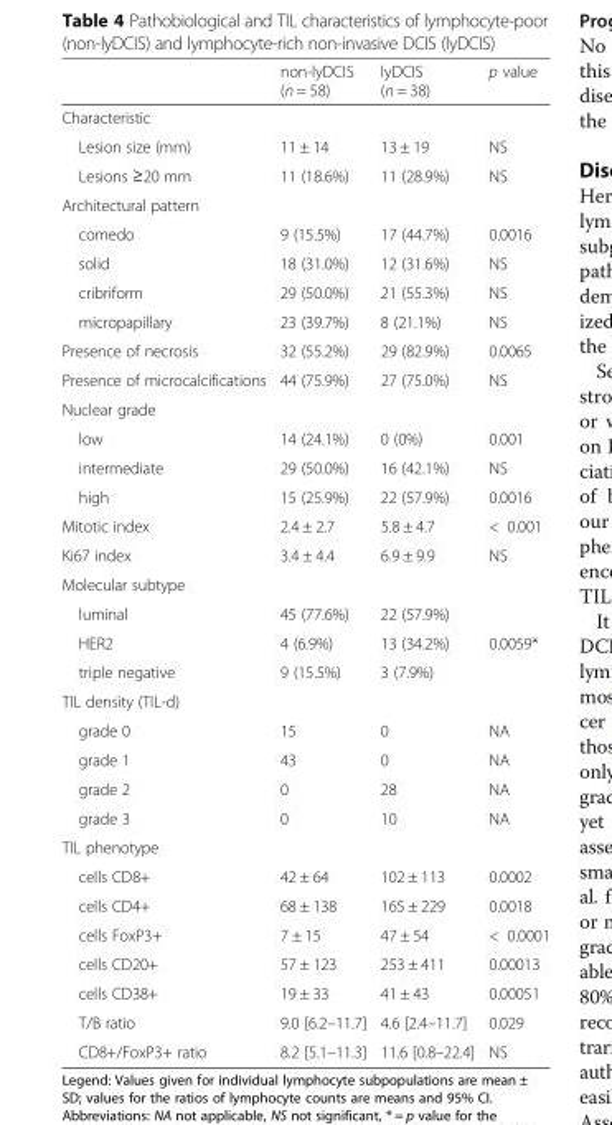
<table><thead><tr><td></td><td>non-lyDCIS (n = 58)</td><td>lyDCIS (n = 38)</td><td>p value</td></tr></thead><tbody><tr><td colspan="4">Characteristic</td></tr><tr><td>Lesion size (mm)</td><td>11 ± 14</td><td>13 ± 19</td><td>NS</td></tr><tr><td>Lesions ≥20 mm</td><td>11 (18.6%)</td><td>11 (28.9%)</td><td>NS</td></tr><tr><td colspan="4">Architectural pattern</td></tr><tr><td>comedo</td><td>9 (15.5%)</td><td>17 (44.7%)</td><td>0.0016</td></tr><tr><td>solid</td><td>18 (31.0%)</td><td>12 (31.6%)</td><td>NS</td></tr><tr><td>cribriform</td><td>29 (50.0%)</td><td>21 (55.3%)</td><td>NS</td></tr><tr><td>micropapillary</td><td>23 (39.7%)</td><td>8 (21.1%)</td><td>NS</td></tr><tr><td>Presence of necrosis</td><td>32 (55.2%)</td><td>29 (82.9%)</td><td>0.0065</td></tr><tr><td>Presence of microcalcifications</td><td>44 (75.9%)</td><td>27 (75.0%)</td><td>NS</td></tr><tr><td colspan="4">Nuclear grade</td></tr><tr><td>low</td><td>14 (24.1%)</td><td>0 (0%)</td><td>0.001</td></tr><tr><td>intermediate</td><td>29 (50.0%)</td><td>16 (42.1%)</td><td>NS</td></tr><tr><td>high</td><td>15 (25.9%)</td><td>22 (57.9%)</td><td>0.0016</td></tr><tr><td>Mitotic index</td><td>2.4 ± 2.7</td><td>5.8 ± 4.7</td><td>&lt; 0.001</td></tr><tr><td>Ki67 index</td><td>3.4 ± 4.4</td><td>6.9 ± 9.9</td><td>NS</td></tr><tr><td colspan="4">Molecular subtype</td></tr><tr><td>luminal</td><td>45 (77.6%)</td><td>22 (57.9%)</td><td></td></tr><tr><td>HER2</td><td>4 (6.9%)</td><td>13 (34.2%)</td><td>0.0059*</td></tr><tr><td>triple negative</td><td>9 (15.5%)</td><td>3 (7.9%)</td><td></td></tr><tr><td colspan="4">TIL density (TIL-d)</td></tr><tr><td>grade 0</td><td>15</td><td>0</td><td>NA</td></tr><tr><td>grade 1</td><td>43</td><td>0</td><td>NA</td></tr><tr><td>grade 2</td><td>0</td><td>28</td><td>NA</td></tr><tr><td>grade 3</td><td>0</td><td>10</td><td>NA</td></tr><tr><td colspan="4">TIL phenotype</td></tr><tr><td>cells CD8+</td><td>42 ± 64</td><td>102 ± 113</td><td>0.0002</td></tr><tr><td>cells CD4+</td><td>68 ± 138</td><td>165 ± 229</td><td>0.0018</td></tr><tr><td>cells FoxP3+</td><td>7 ± 15</td><td>47 ± 54</td><td>&lt; 0.0001</td></tr><tr><td>cells CD20+</td><td>57 ± 123</td><td>253 ± 411</td><td>0.00013</td></tr><tr><td>cells CD38+</td><td>19 ± 33</td><td>41 ± 43</td><td>0.00051</td></tr><tr><td>T/B ratio</td><td>9.0 [6.2–11.7]</td><td>4.6 [2.4–11.7]</td><td>0.029</td></tr><tr><td>CD8+/FoxP3+ ratio</td><td>8.2 [5.1–11.3]</td><td>11.6 [0.8–22.4]</td><td>NS</td></tr></tbody></table>